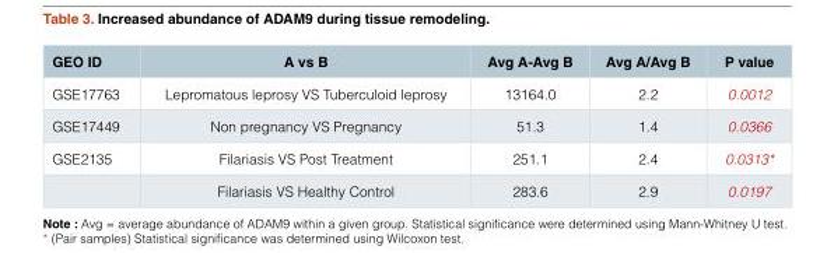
<table><thead><tr><td>GEO ID</td><td>A vs B</td><td>Avg A-Avg B</td><td>Avg A/Avg B</td><td>P value</td></tr></thead><tbody><tr><td>GSE17763</td><td>Lepromatous leprosy VS Tuberculoid leprosy</td><td>13164.0</td><td>2.2</td><td>0.0012</td></tr><tr><td>GSE17449</td><td>Non pregnancy VS Pregnancy</td><td>51.3</td><td>1.4</td><td>0.0366</td></tr><tr><td rowspan="2">GSE2135</td><td>Filariasis VS Post Treatment</td><td>251.1</td><td>2.4</td><td>0.0313*</td></tr><tr><td>Filariasis VS Healthy Control</td><td>283.6</td><td>2.9</td><td>0.0197</td></tr></tbody></table>